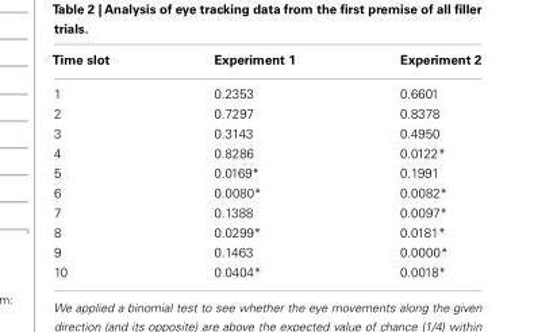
<table><thead><tr><td>Time slot</td><td>Experiment 1</td><td>Experiment 2</td></tr></thead><tbody><tr><td>1</td><td>0.2353</td><td>0.6601</td></tr><tr><td>2</td><td>0.7297</td><td>0.8378</td></tr><tr><td>3</td><td>0.3143</td><td>0.4950</td></tr><tr><td>4</td><td>0.8286</td><td>0.0122*</td></tr><tr><td>5</td><td>0.0169*</td><td>0.1991</td></tr><tr><td>6</td><td>0.0080*</td><td>0.0082*</td></tr><tr><td>7</td><td>0.1388</td><td>0.0097*</td></tr><tr><td>8</td><td>0.0299*</td><td>0.0181*</td></tr><tr><td>9</td><td>0.1463</td><td>0.0000*</td></tr><tr><td>10</td><td>0.0404*</td><td>0.0018*</td></tr></tbody></table>